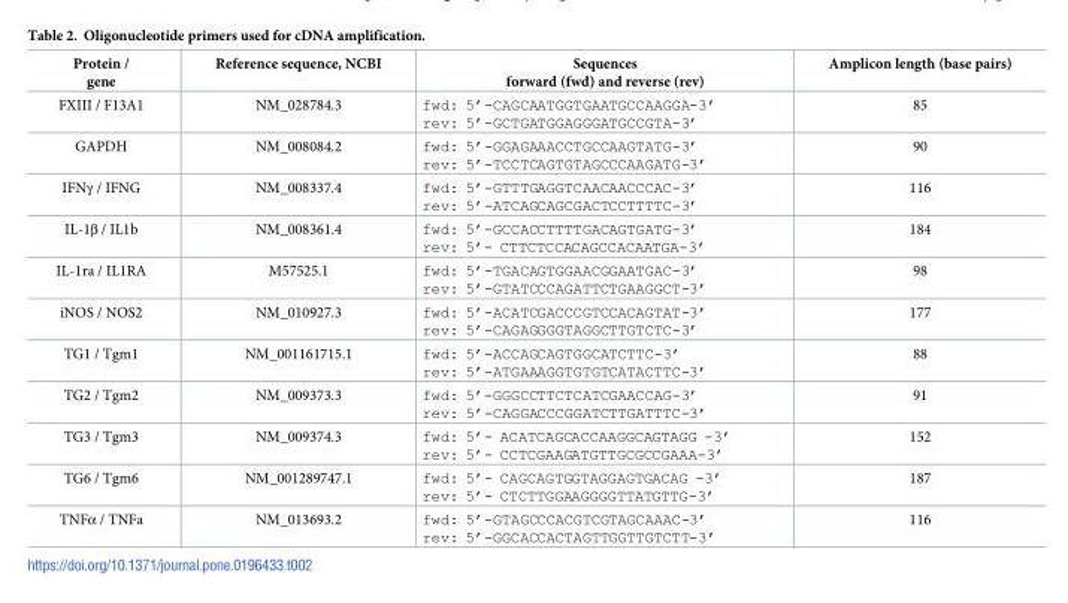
<table><thead><tr><td>Protein / gene</td><td>Reference sequence, NCBI</td><td>Sequences forward (fwd) and reverse (rev)</td><td>Amplicon length (base pairs)</td></tr></thead><tbody><tr><td>FXIII / F13A1</td><td>NM_028784.3</td><td>fwd: 5’-CAGCAATGGTGAATGCCAAGGA-3’ rev: 5’-GCTGATGGAGGGATGCCGTA-3’</td><td>85</td></tr><tr><td>GAPDH</td><td>NM_008084.2</td><td>fwd: 5’-GGAGAAACCTGCCAAGTATG-3’ rev: 5’-TCCTCAGTGTAGCCCAAGATG-3’</td><td>90</td></tr><tr><td>IFNγ / IFNG</td><td>NM_008337.4</td><td>fwd: 5’-GTTTGAGGTCAACAACCCAC-3’ rev: 5’-ATCAGCAGCGACTCCTTTTC-3’</td><td>116</td></tr><tr><td>IL-1β / IL1b</td><td>NM_008361.4</td><td>fwd: 5’-GCCACCTTTTGACAGTGATG-3’ rev: 5’- CTTCTCCACAGCCACAATGA-3’</td><td>184</td></tr><tr><td>IL-1ra / IL1RA</td><td>M57525.1</td><td>fwd: 5’-TGACAGTGGAACGGAATGAC-3’ rev: 5’-GTATCCCAGATTCTGAAGGCT-3’</td><td>98</td></tr><tr><td>iNOS / NOS2</td><td>NM_010927.3</td><td>fwd: 5’-ACATCGACCCGTCCACAGTAT-3’ rev: 5’-CAGAGGGGTAGGCTTGTCTC-3’</td><td>177</td></tr><tr><td>TG1 / Tgm1</td><td>NM_001161715.1</td><td>fwd: 5’-ACCAGCAGTGGCATCTTC-3’ rev: 5’-ATGAAAGGTGTGTCATACTTC-3’</td><td>88</td></tr><tr><td>TG2 / Tgm2</td><td>NM_009373.3</td><td>fwd: 5’-GGGCCTTCTCATCGAACCAG-3’ rev: 5’-CAGGACCCGGATCTTGATTTC-3’</td><td>91</td></tr><tr><td>TG3 / Tgm3</td><td>NM_009374.3</td><td>fwd: 5’- ACATCAGCACCAAGGCAGTAGG -3’ rev: 5’- CCTCGAAGATGTTGCGCCGAAA-3’</td><td>152</td></tr><tr><td>TG6 / Tgm6</td><td>NM_001289747.1</td><td>fwd: 5’- CAGCAGTGGTAGGAGTGACAG -3’ rev: 5’- CTCTTGGAAGGGGTTATGTTG-3’</td><td>187</td></tr><tr><td>TNFα / TNFa</td><td>NM_013693.2</td><td>fwd: 5’-GTAGCCCACGTCGTAGCAAAC-3’ rev: 5’-GGCACCACTAGTTGGTTGTCTT-3’</td><td>116</td></tr></tbody></table>